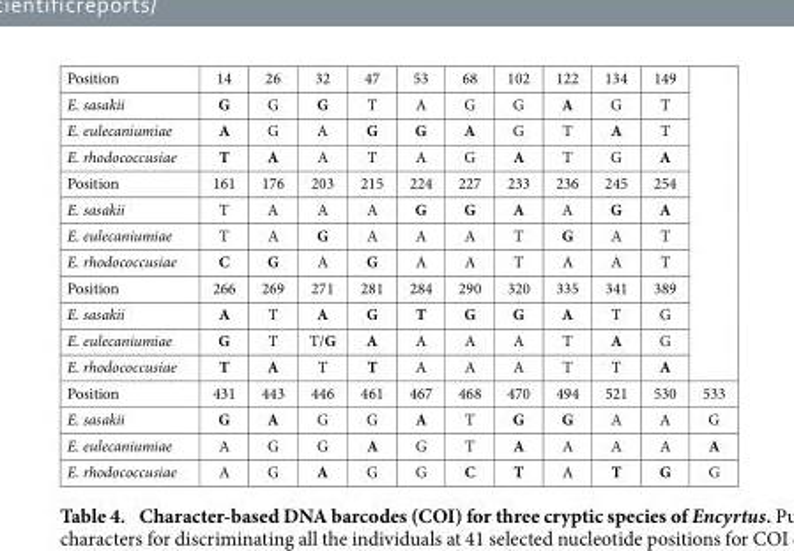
<table><tbody><tr><td>Position</td><td>14</td><td>26</td><td>32</td><td>47</td><td>53</td><td>68</td><td>102</td><td>122</td><td>134</td><td>149</td><td rowspan="12"></td></tr><tr><td>E. sasakii</td><td>G</td><td>G</td><td>G</td><td>T</td><td>A</td><td>G</td><td>G</td><td>A</td><td>G</td><td>T</td></tr><tr><td>E. eulecaniumiae</td><td>A</td><td>G</td><td>A</td><td>G</td><td>G</td><td>A</td><td>G</td><td>T</td><td>A</td><td>T</td></tr><tr><td>E. rhodococcusiae</td><td>T</td><td>A</td><td>A</td><td>T</td><td>A</td><td>G</td><td>A</td><td>T</td><td>G</td><td>A</td></tr><tr><td>Position</td><td>161</td><td>176</td><td>203</td><td>215</td><td>224</td><td>227</td><td>233</td><td>236</td><td>245</td><td>254</td></tr><tr><td>E. sasakii</td><td>T</td><td>A</td><td>A</td><td>A</td><td>G</td><td>G</td><td>A</td><td>A</td><td>G</td><td>A</td></tr><tr><td>E. eulecaniumiae</td><td>T</td><td>A</td><td>G</td><td>A</td><td>A</td><td>A</td><td>T</td><td>G</td><td>A</td><td>T</td></tr><tr><td>E. rhodococcusiae</td><td>C</td><td>G</td><td>A</td><td>G</td><td>A</td><td>A</td><td>T</td><td>A</td><td>A</td><td>T</td></tr><tr><td>Position</td><td>266</td><td>269</td><td>271</td><td>281</td><td>284</td><td>290</td><td>320</td><td>335</td><td>341</td><td>389</td></tr><tr><td>E. sasakii</td><td>A</td><td>T</td><td>A</td><td>G</td><td>T</td><td>G</td><td>G</td><td>A</td><td>T</td><td>G</td></tr><tr><td>E. eulecaniumiae</td><td>G</td><td>T</td><td>T/G</td><td>A</td><td>A</td><td>A</td><td>A</td><td>T</td><td>A</td><td>G</td></tr><tr><td>E. rhodococcusiae</td><td>T</td><td>A</td><td>T</td><td>T</td><td>A</td><td>A</td><td>A</td><td>T</td><td>T</td><td>A</td></tr><tr><td>Position</td><td>431</td><td>443</td><td>446</td><td>461</td><td>467</td><td>468</td><td>470</td><td>494</td><td>521</td><td>530</td><td>533</td></tr><tr><td>E. sasakii</td><td>G</td><td>A</td><td>G</td><td>G</td><td>A</td><td>T</td><td>G</td><td>G</td><td>A</td><td>A</td><td>G</td></tr><tr><td>E. eulecaniumiae</td><td>A</td><td>G</td><td>G</td><td>A</td><td>G</td><td>T</td><td>A</td><td>A</td><td>A</td><td>A</td><td>A</td></tr><tr><td>E. rhodococcusiae</td><td>A</td><td>G</td><td>A</td><td>G</td><td>G</td><td>C</td><td>T</td><td>A</td><td>T</td><td>G</td><td>G</td></tr></tbody></table>